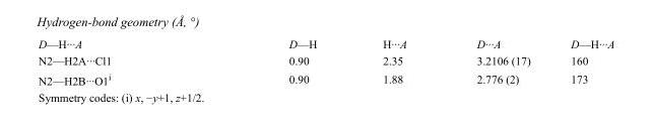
<table><tbody><tr><td>D—H···A</td><td>D—H</td><td>H···A</td><td>D···A</td><td>D—H···A</td></tr><tr><td>N2—H2A···Cl1</td><td>0.90</td><td>2.35</td><td>3.2106 (17)</td><td>160</td></tr><tr><td>N2—H2B···O1<sup>i</sup></td><td>0.90</td><td>1.88</td><td>2.776 (2)</td><td>173</td></tr></tbody></table>